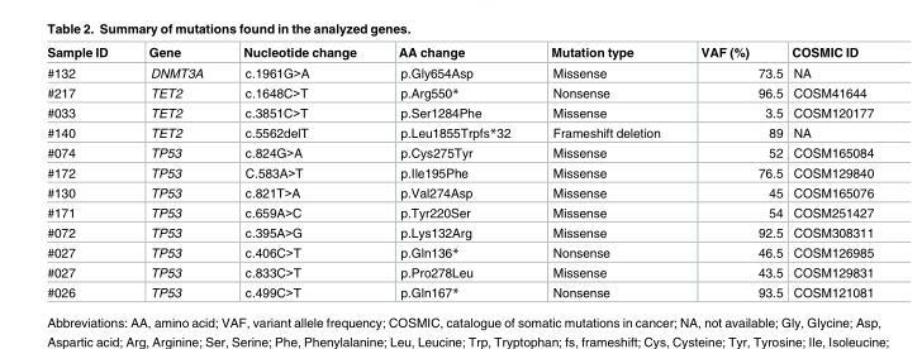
<table><thead><tr><td>Sample ID</td><td>Gene</td><td>Nucleotide change</td><td>AA change</td><td>Mutation type</td><td>VAF (%)</td><td>COSMIC ID</td></tr></thead><tbody><tr><td>#132</td><td>DNMT3A</td><td>c.1961G&gt;A</td><td>p.Gly654Asp</td><td>Missense</td><td>73.5</td><td>NA</td></tr><tr><td>#217</td><td>TET2</td><td>c.1648C&gt;T</td><td>p.Arg550*</td><td>Nonsense</td><td>96.5</td><td>COSM41644</td></tr><tr><td>#033</td><td>TET2</td><td>c.3851C&gt;T</td><td>p.Ser1284Phe</td><td>Missense</td><td>3.5</td><td>COSM120177</td></tr><tr><td>#140</td><td>TET2</td><td>c.5562delT</td><td>p.Leu1855Trpfs*32</td><td>Frameshift deletion</td><td>89</td><td>NA</td></tr><tr><td>#074</td><td>TP53</td><td>c.824G&gt;A</td><td>p.Cys275Tyr</td><td>Missense</td><td>52</td><td>COSM165084</td></tr><tr><td>#172</td><td>TP53</td><td>C.583A&gt;T</td><td>p.Ile195Phe</td><td>Missense</td><td>76.5</td><td>COSM129840</td></tr><tr><td>#130</td><td>TP53</td><td>c.821T&gt;A</td><td>p.Val274Asp</td><td>Missense</td><td>45</td><td>COSM165076</td></tr><tr><td>#171</td><td>TP53</td><td>c.659A&gt;C</td><td>p.Tyr220Ser</td><td>Missense</td><td>54</td><td>COSM251427</td></tr><tr><td>#072</td><td>TP53</td><td>c.395A&gt;G</td><td>p.Lys132Arg</td><td>Missense</td><td>92.5</td><td>COSM308311</td></tr><tr><td>#027</td><td>TP53</td><td>c.406C&gt;T</td><td>p.Gln136*</td><td>Nonsense</td><td>46.5</td><td>COSM126985</td></tr><tr><td>#027</td><td>TP53</td><td>c.833C&gt;T</td><td>p.Pro278Leu</td><td>Missense</td><td>43.5</td><td>COSM129831</td></tr><tr><td>#026</td><td>TP53</td><td>c.499C&gt;T</td><td>p.Gln167*</td><td>Nonsense</td><td>93.5</td><td>COSM121081</td></tr></tbody></table>